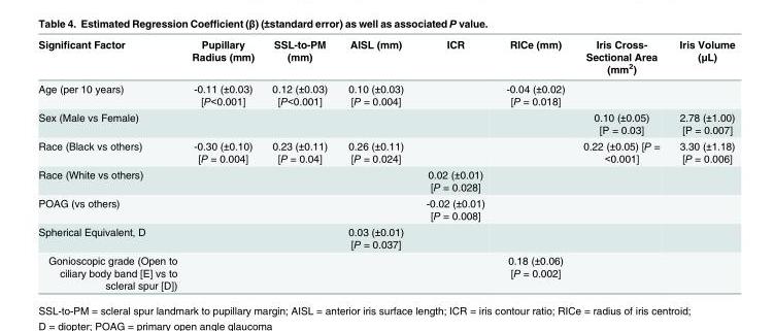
<table><thead><tr><td>Significant Factor</td><td>Pupillary Radius (mm)</td><td>SSL-to-PM (mm)</td><td>AISL (mm)</td><td>ICR</td><td>RICe (mm)</td><td>Iris Cross- Sectional Area (mm<sup>2</sup>)</td><td>Iris Volume (μL)</td></tr></thead><tbody><tr><td>Age (per 10 years)</td><td>-0.11 (±0.03) [P&lt;0.001]</td><td>0.12 (±0.03) [P&lt;0.001]</td><td>0.10 (±0.03) [P = 0.004]</td><td></td><td>-0.04 (±0.02) [P = 0.018]</td><td></td><td></td></tr><tr><td>Sex (Male vs Female)</td><td></td><td></td><td></td><td></td><td></td><td>0.10 (±0.05) [P = 0.03]</td><td>2.78 (±1.00) [P = 0.007]</td></tr><tr><td>Race (Black vs others)</td><td>-0.30 (±0.10) [P = 0.004]</td><td>0.23 (±0.11) [P = 0.04]</td><td>0.26 (±0.11) [P = 0.024]</td><td></td><td></td><td>0.22 (±0.05) [P = &lt;0.001]</td><td>3.30 (±1.18) [P = 0.006]</td></tr><tr><td>Race (White vs others)</td><td></td><td></td><td></td><td>0.02 (±0.01) [P = 0.028]</td><td></td><td></td><td></td></tr><tr><td>POAG (vs others)</td><td></td><td></td><td></td><td>-0.02 (±0.01) [P = 0.008]</td><td></td><td></td><td></td></tr><tr><td>Spherical Equivalent, D</td><td></td><td></td><td>0.03 (±0.01) [P = 0.037]</td><td></td><td></td><td></td><td></td></tr><tr><td>Gonioscopic grade (Open to ciliary body band [E] vs to scleral spur [D])</td><td></td><td></td><td></td><td></td><td>0.18 (±0.06) [P = 0.002]</td><td></td><td></td></tr></tbody></table>